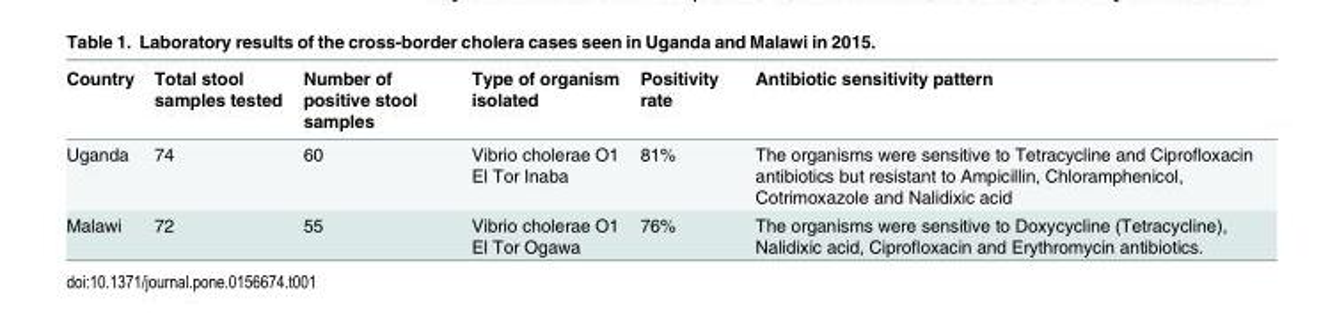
<table><thead><tr><td>Country</td><td>Total stool samples tested</td><td>Number of positive stool samples</td><td>Type of organism isolated</td><td>Positivity rate</td><td>Antibiotic sensitivity pattern</td></tr></thead><tbody><tr><td>Uganda</td><td>74</td><td>60</td><td>Vibrio cholerae O1 El Tor Inaba</td><td>81%</td><td>The organisms were sensitive to Tetracycline and Ciprofloxacin antibiotics but resistant to Ampicillin, Chloramphenicol, Cotrimoxazole and Nalidixic acid</td></tr><tr><td>Malawi</td><td>72</td><td>55</td><td>Vibrio cholerae O1 El Tor Ogawa</td><td>76%</td><td>The organisms were sensitive to Doxycycline (Tetracycline), Nalidixic acid, Ciprofloxacin and Erythromycin antibiotics.</td></tr></tbody></table>